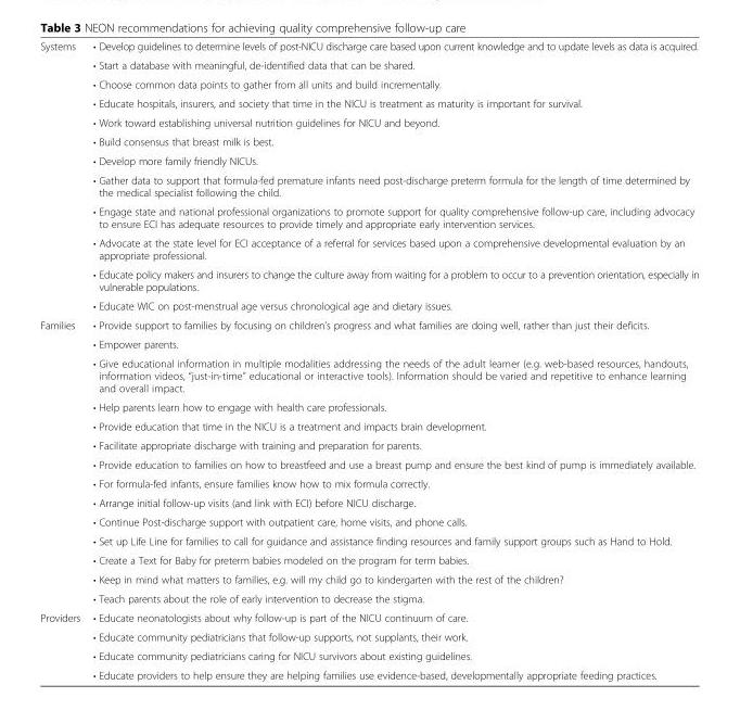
<table><tbody><tr><td rowspan="12">Systems</td><td>• Develop guidelines to determine levels of post-NICU discharge care based upon current knowledge and to update levels as data is acquired.</td></tr><tr><td>• Start a database with meaningful, de-identified data that can be shared.</td></tr><tr><td>• Choose common data points to gather from all units and build incrementally.</td></tr><tr><td>• Educate hospitals, insurers, and society that time in the NICU is treatment as maturity is important for survival.</td></tr><tr><td>• Work toward establishing universal nutrition guidelines for NICU and beyond.</td></tr><tr><td>• Build consensus that breast milk is best.</td></tr><tr><td>• Develop more family friendly NICUs.</td></tr><tr><td>• Gather data to support that formula-fed premature infants need post-discharge preterm formula for the length of time determined by the medical specialist following the child.</td></tr><tr><td>• Engage state and national professional organizations to promote support for quality comprehensive follow-up care, including advocacy to ensure ECI has adequate resources to provide timely and appropriate early intervention services.</td></tr><tr><td>• Advocate at the state level for ECI acceptance of a referral for services based upon a comprehensive developmental evaluation by an appropriate professional.</td></tr><tr><td>• Educate policy makers and insurers to change the culture away from waiting for a problem to occur to a prevention orientation, especially in vulnerable populations.</td></tr><tr><td>• Educate WIC on post-menstrual age versus chronological age and dietary issues.</td></tr><tr><td rowspan="14">Families</td><td>• Provide support to families by focusing on children’s progress and what families are doing well, rather than just their deficits.</td></tr><tr><td>• Empower parents.</td></tr><tr><td>• Give educational information in multiple modalities addressing the needs of the adult learner (e.g. web-based resources, handouts, information videos, “just-in-time” educational or interactive tools). Information should be varied and repetitive to enhance learning and overall impact.</td></tr><tr><td>• Help parents learn how to engage with health care professionals.</td></tr><tr><td>• Provide education that time in the NICU is a treatment and impacts brain development.</td></tr><tr><td>• Facilitate appropriate discharge with training and preparation for parents.</td></tr><tr><td>• Provide education to families on how to breastfeed and use a breast pump and ensure the best kind of pump is immediately available.</td></tr><tr><td>• For formula-fed infants, ensure families know how to mix formula correctly.</td></tr><tr><td>• Arrange initial follow-up visits (and link with ECI) before NICU discharge.</td></tr><tr><td>• Continue Post-discharge support with outpatient care, home visits, and phone calls.</td></tr><tr><td>• Set up Life Line for families to call for guidance and assistance finding resources and family support groups such as Hand to Hold.</td></tr><tr><td>• Create a Text for Baby for preterm babies modeled on the program for term babies.</td></tr><tr><td>• Keep in mind what matters to families, e.g. will my child go to kindergarten with the rest of the children?</td></tr><tr><td>• Teach parents about the role of early intervention to decrease the stigma.</td></tr><tr><td rowspan="4">Providers</td><td>• Educate neonatologists about why follow-up is part of the NICU continuum of care.</td></tr><tr><td>• Educate community pediatricians that follow-up supports, not supplants, their work.</td></tr><tr><td>• Educate community pediatricians caring for NICU survivors about existing guidelines.</td></tr><tr><td>• Educate providers to help ensure they are helping families use evidence-based, developmentally appropriate feeding practices.</td></tr></tbody></table>